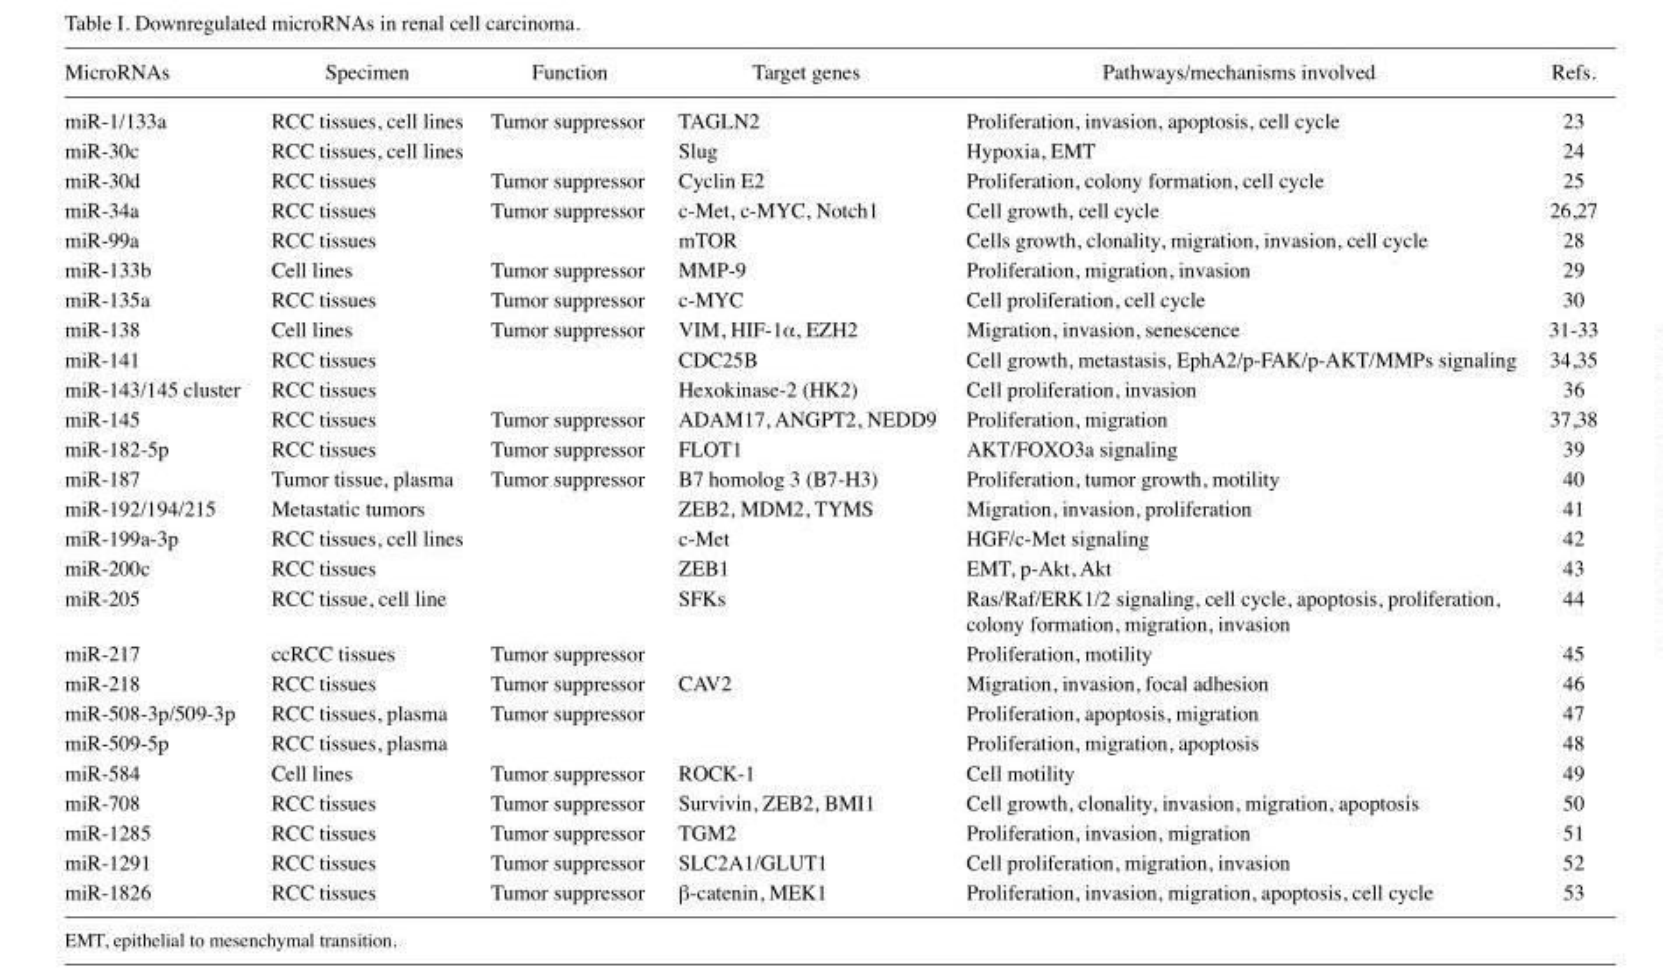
<table><thead><tr><td>MicroRNAs</td><td>Specimen</td><td>Function</td><td>Target genes</td><td>Pathways/mechanisms involved</td><td>Refs.</td></tr></thead><tbody><tr><td>miR-1/133a</td><td>RCC tissues, cell lines</td><td>Tumor suppressor</td><td>TAGLN2</td><td>Proliferation, invasion, apoptosis, cell cycle</td><td>23</td></tr><tr><td>miR-30c</td><td>RCC tissues, cell lines</td><td></td><td>Slug</td><td>Hypoxia, EMT</td><td>24</td></tr><tr><td>miR-30d</td><td>RCC tissues</td><td>Tumor suppressor</td><td>Cyclin E2</td><td>Proliferation, colony formation, cell cycle</td><td>25</td></tr><tr><td>miR-34a</td><td>RCC tissues</td><td>Tumor suppressor</td><td>c-Met, c-MYC, Notch1</td><td>Cell growth, cell cycle</td><td>26,27</td></tr><tr><td>miR-99a</td><td>RCC tissues</td><td></td><td>mTOR</td><td>Cells growth, clonality, migration, invasion, cell cycle</td><td>28</td></tr><tr><td>miR-133b</td><td>Cell lines</td><td>Tumor suppressor</td><td>MMP-9</td><td>Proliferation, migration, invasion</td><td>29</td></tr><tr><td>miR-135a</td><td>RCC tissues</td><td>Tumor suppressor</td><td>c-MYC</td><td>Cell proliferation, cell cycle</td><td>30</td></tr><tr><td>miR-138</td><td>Cell lines</td><td>Tumor suppressor</td><td>VIM, HIF-1α, EzH2</td><td>Migration, invasion, senescence</td><td>31-33</td></tr><tr><td>miR-141</td><td>RCC tissues</td><td></td><td>CDC25B</td><td>Cell growth, metastasis, EphA2/p-FAK/p-AKT/MMPs signaling</td><td>34,35</td></tr><tr><td>miR-143/145 cluster</td><td>RCC tissues</td><td></td><td>Hexokinase-2 (HK2)</td><td>Cell proliferation, invasion</td><td>36</td></tr><tr><td>miR-145</td><td>RCC tissues</td><td>Tumor suppressor</td><td>ADAM17, ANGPT2, NEDD9</td><td>Proliferation, migration</td><td>37,38</td></tr><tr><td>miR-182-5p</td><td>RCC tissues</td><td>Tumor suppressor</td><td>FLOT1</td><td>AKT/FOXO3a signaling</td><td>39</td></tr><tr><td>miR-187</td><td>Tumor tissue, plasma</td><td>Tumor suppressor</td><td>B7 homolog 3 (B7-H3)</td><td>Proliferation, tumor growth, motility</td><td>40</td></tr><tr><td>miR-192/194/215</td><td>Metastatic tumors</td><td></td><td>ZEB2, MDM2, TYMS</td><td>Migration, invasion, proliferation</td><td>41</td></tr><tr><td>miR-199a-3p</td><td>RCC tissues, cell lines</td><td></td><td>c-Met</td><td>HGF/c-Met signaling</td><td>42</td></tr><tr><td>miR-200c</td><td>RCC tissues</td><td></td><td>zEB1</td><td>EMT, p-Akt, Akt</td><td>43</td></tr><tr><td>miR-205</td><td>RCC tissue, cell line</td><td></td><td>SFKs</td><td>Ras/Raf/ERK1/2 signaling, cell cycle, apoptosis, proliferation, colony formation, migration, invasion</td><td>44</td></tr><tr><td>miR-217</td><td>ccRCC tissues</td><td>Tumor suppressor</td><td></td><td>Proliferation, motility</td><td>45</td></tr><tr><td>miR-218</td><td>RCC tissues</td><td>Tumor suppressor</td><td>CAV2</td><td>Migration, invasion, focal adhesion</td><td>46</td></tr><tr><td>miR-508-3p/509-3p</td><td>RCC tissues, plasma</td><td>Tumor suppressor</td><td></td><td>Proliferation, apoptosis, migration</td><td>47</td></tr><tr><td>miR-509-5p</td><td>RCC tissues, plasma</td><td></td><td></td><td>Proliferation, migration, apoptosis</td><td>48</td></tr><tr><td>miR-584</td><td>Cell lines</td><td>Tumor suppressor</td><td>ROCK-1</td><td>Cell motility</td><td>49</td></tr><tr><td>miR-708</td><td>RCC tissues</td><td>Tumor suppressor</td><td>Survivin, zEB2, BMI1</td><td>Cell growth, clonality, invasion, migration, apoptosis</td><td>50</td></tr><tr><td>miR-1285</td><td>RCC tissues</td><td>Tumor suppressor</td><td>TGM2</td><td>Proliferation, invasion, migration</td><td>51</td></tr><tr><td>miR-1291</td><td>RCC tissues</td><td>Tumor suppressor</td><td>SLC2A1/GLUT1</td><td>Cell proliferation, migration, invasion</td><td>52</td></tr><tr><td>miR-1826</td><td>RCC tissues</td><td>Tumor suppressor</td><td>β-catenin, MEK1</td><td>Proliferation, invasion, migration, apoptosis, cell cycle</td><td>53</td></tr></tbody></table>